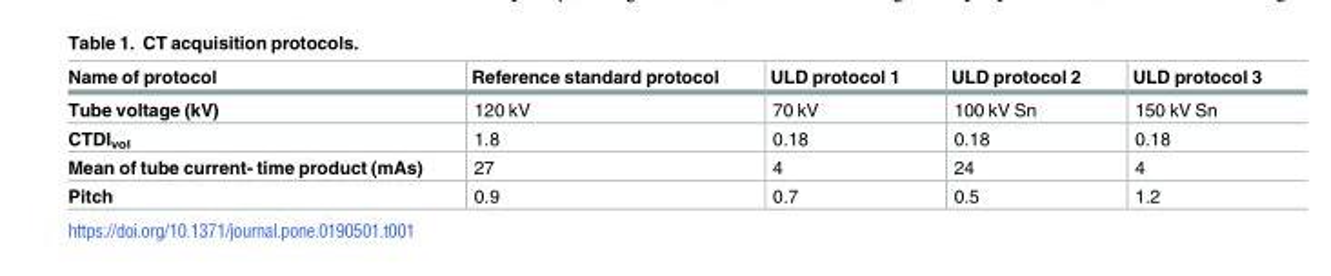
<table><thead><tr><td>Name of protocol</td><td>Reference standard protocol</td><td>ULD protocol 1</td><td>ULD protocol 2</td><td>ULD protocol 3</td></tr></thead><tbody><tr><td>Tube voltage (kV)</td><td>120 kV</td><td>70 kV</td><td>100 kV Sn</td><td>150 kV Sn</td></tr><tr><td>CTDI<sub>vol</sub></td><td>1.8</td><td>0.18</td><td>0.18</td><td>0.18</td></tr><tr><td>Mean of tube current- time product (mAs)</td><td>27</td><td>4</td><td>24</td><td>4</td></tr><tr><td>Pitch</td><td>0.9</td><td>0.7</td><td>0.5</td><td>1.2</td></tr></tbody></table>